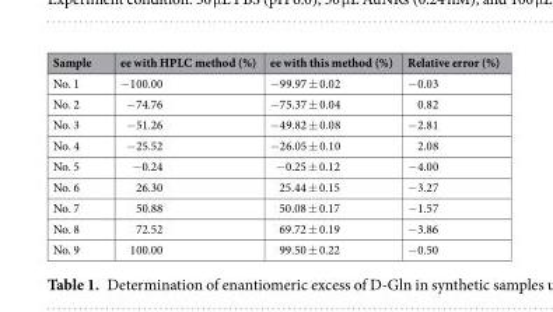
<table><thead><tr><td>Sample</td><td>ee with HPLC method (%)</td><td>ee with this method (%)</td><td>Relative error (%)</td></tr></thead><tbody><tr><td>No. 1</td><td>−100.00</td><td>−99.97 ± 0.02</td><td>−0.03</td></tr><tr><td>No. 2</td><td>−74.76</td><td>−75.37 ± 0.04</td><td>0.82</td></tr><tr><td>No. 3</td><td>−51.26</td><td>−49.82 ± 0.08</td><td>−2.81</td></tr><tr><td>No. 4</td><td>−25.52</td><td>−26.05 ± 0.10</td><td>2.08</td></tr><tr><td>No. 5</td><td>−0.24</td><td>−0.25 ± 0.12</td><td>−4.00</td></tr><tr><td>No. 6</td><td>26.30</td><td>25.44 ± 0.15</td><td>−3.27</td></tr><tr><td>No. 7</td><td>50.88</td><td>50.08 ± 0.17</td><td>−1.57</td></tr><tr><td>No. 8</td><td>72.52</td><td>69.72 ± 0.19</td><td>−3.86</td></tr><tr><td>No. 9</td><td>100.00</td><td>99.50 ± 0.22</td><td>−0.50</td></tr></tbody></table>